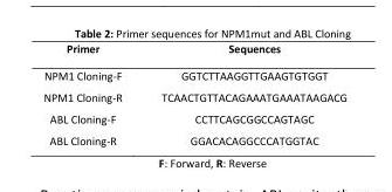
<table><thead><tr><td>Primer</td><td>Sequences</td></tr></thead><tbody><tr><td>NPM1 Cloning-F</td><td>GGTCTTAAGGTTGAAGTGTGGT</td></tr><tr><td>NPM1 Cloning-R</td><td>TCAACTGTTACAGAAATGAAATAAGACG</td></tr><tr><td>ABL Cloning-F</td><td>CCTTCAGCGGCCAGTAGC</td></tr><tr><td>ABL Cloning-R</td><td>GGACACAGGCCCATGGTAC</td></tr></tbody></table>